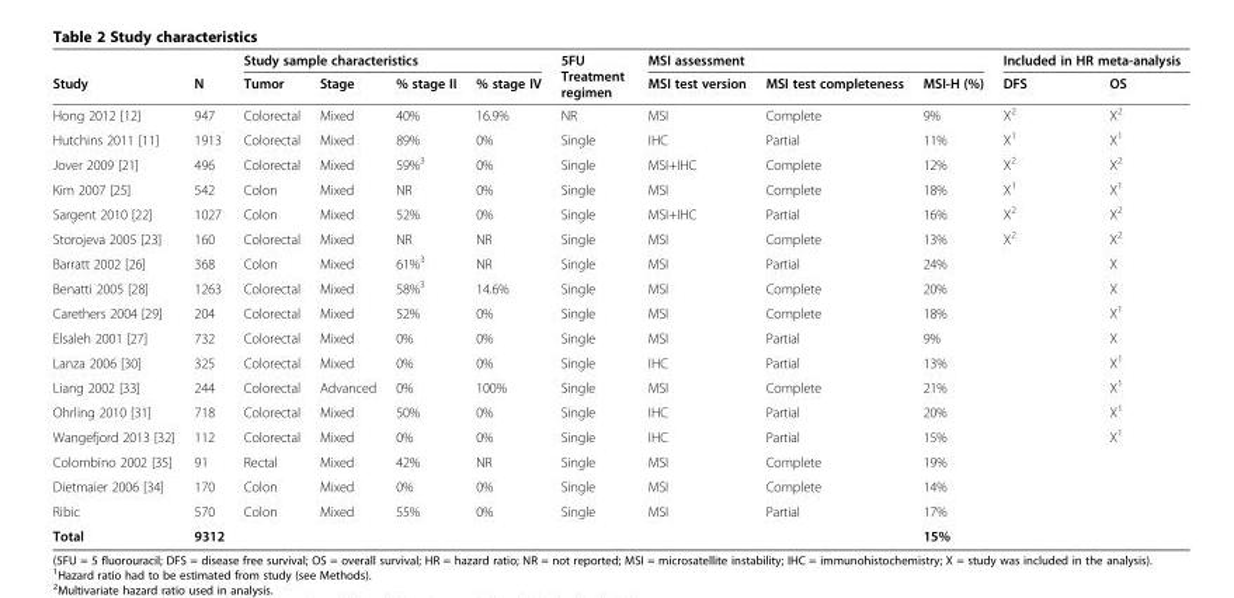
<table><thead><tr><td rowspan="2">Study</td><td rowspan="2">N</td><td colspan="4">Study sample characteristics</td><td rowspan="2">5FU Treatment regimen</td><td colspan="3">MSI assessment</td><td colspan="2">Included in HR meta-analysis</td></tr><tr><td>Tumor</td><td>Stage</td><td>% stage II</td><td>% stage IV</td><td>MSI test version</td><td>MSI test completeness</td><td>MSI-H (%)</td><td>DFS</td><td>OS</td></tr></thead><tbody><tr><td>Hong 2012 [12]</td><td>947</td><td>Colorectal</td><td>Mixed</td><td>40%</td><td>16.9%</td><td>NR</td><td>MSI</td><td>Complete</td><td>9%</td><td>X<sup>2</sup></td><td>X<sup>2</sup></td></tr><tr><td>Hutchins 2011 [11]</td><td>1913</td><td>Colorectal</td><td>Mixed</td><td>89%</td><td>0%</td><td>Single</td><td>IHC</td><td>Partial</td><td>11%</td><td>X<sup>1</sup></td><td>X<sup>1</sup></td></tr><tr><td>Jover 2009 [21]</td><td>496</td><td>Colorectal</td><td>Mixed</td><td>59%<sup>3</sup></td><td>0%</td><td>Single</td><td>MSI+IHC</td><td>Complete</td><td>12%</td><td>X<sup>2</sup></td><td>X<sup>2</sup></td></tr><tr><td>Kim 2007 [25]</td><td>542</td><td>Colon</td><td>Mixed</td><td>NR</td><td>0%</td><td>Single</td><td>MSI</td><td>Complete</td><td>18%</td><td>X<sup>1</sup></td><td>X<sup>1</sup></td></tr><tr><td>Sargent 2010 [22]</td><td>1027</td><td>Colon</td><td>Mixed</td><td>52%</td><td>0%</td><td>Single</td><td>MSI+IHC</td><td>Partial</td><td>16%</td><td>X<sup>2</sup></td><td>X<sup>2</sup></td></tr><tr><td>Storojeva 2005 [23]</td><td>160</td><td>Colorectal</td><td>Mixed</td><td>NR</td><td>NR</td><td>Single</td><td>MSI</td><td>Complete</td><td>13%</td><td>X<sup>2</sup></td><td>X<sup>2</sup></td></tr><tr><td>Barratt 2002 [26]</td><td>368</td><td>Colon</td><td>Mixed</td><td>61%<sup>3</sup></td><td>NR</td><td>Single</td><td>MSI</td><td>Partial</td><td>24%</td><td></td><td>X</td></tr><tr><td>Benatti 2005 [28]</td><td>1263</td><td>Colorectal</td><td>Mixed</td><td>58%<sup>3</sup></td><td>14.6%</td><td>Single</td><td>MSI</td><td>Complete</td><td>20%</td><td></td><td>X</td></tr><tr><td>Carethers 2004 [29]</td><td>204</td><td>Colorectal</td><td>Mixed</td><td>52%</td><td>0%</td><td>Single</td><td>MSI</td><td>Complete</td><td>18%</td><td></td><td>X<sup>1</sup></td></tr><tr><td>Elsaleh 2001 [27]</td><td>732</td><td>Colorectal</td><td>Mixed</td><td>0%</td><td>0%</td><td>Single</td><td>MSI</td><td>Partial</td><td>9%</td><td></td><td>X</td></tr><tr><td>Lanza 2006 [30]</td><td>325</td><td>Colorectal</td><td>Mixed</td><td>0%</td><td>0%</td><td>Single</td><td>IHC</td><td>Partial</td><td>13%</td><td></td><td>X<sup>1</sup></td></tr><tr><td>Liang 2002 [33]</td><td>244</td><td>Colorectal</td><td>Advanced</td><td>0%</td><td>100%</td><td>Single</td><td>MSI</td><td>Complete</td><td>21%</td><td></td><td>X<sup>1</sup></td></tr><tr><td>Ohrling 2010 [31]</td><td>718</td><td>Colorectal</td><td>Mixed</td><td>50%</td><td>0%</td><td>Single</td><td>IHC</td><td>Partial</td><td>20%</td><td></td><td>X<sup>1</sup></td></tr><tr><td>Wangefjord 2013 [32]</td><td>112</td><td>Colorectal</td><td>Mixed</td><td>0%</td><td>0%</td><td>Single</td><td>IHC</td><td>Partial</td><td>15%</td><td></td><td>X<sup>1</sup></td></tr><tr><td>Colombino 2002 [35]</td><td>91</td><td>Rectal</td><td>Mixed</td><td>42%</td><td>NR</td><td>Single</td><td>MSI</td><td>Complete</td><td>19%</td><td></td><td></td></tr><tr><td>Dietmaier 2006 [34]</td><td>170</td><td>Colon</td><td>Mixed</td><td>0%</td><td>0%</td><td>Single</td><td>MSI</td><td>Complete</td><td>14%</td><td></td><td></td></tr><tr><td>Ribic</td><td>570</td><td>Colon</td><td>Mixed</td><td>55%</td><td>0%</td><td>Single</td><td>MSI</td><td>Partial</td><td>17%</td><td></td><td></td></tr><tr><td>Total</td><td>9312</td><td></td><td></td><td></td><td></td><td></td><td></td><td></td><td>15%</td><td></td><td></td></tr></tbody></table>